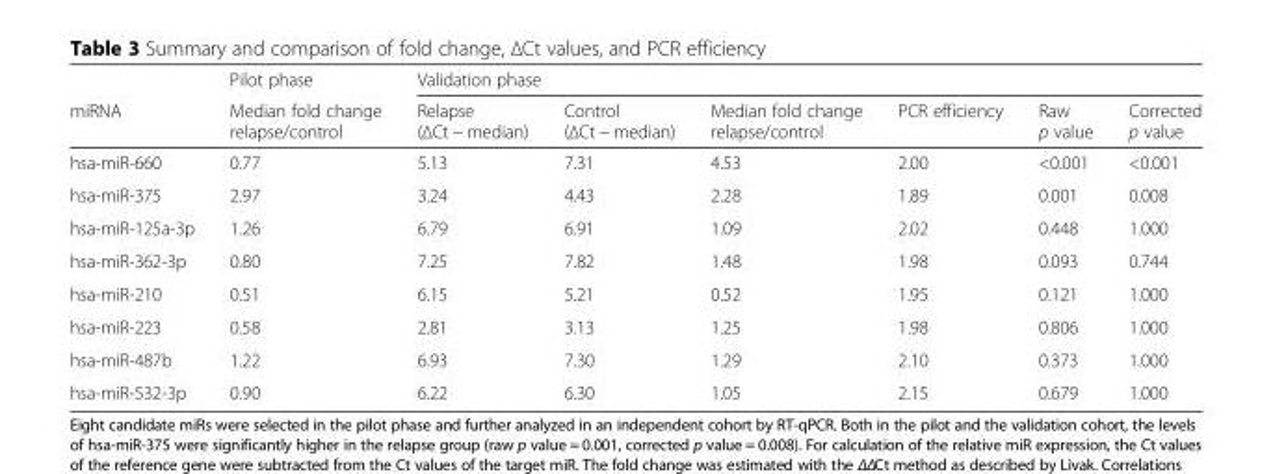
<table><thead><tr><td rowspan="2">miRNA</td><td rowspan="2">Pilot phase Median fold change relapse/control</td><td colspan="6">Validation phase</td></tr><tr><td>Relapse (ΔCt − median)</td><td>Control (ΔCt − median)</td><td>Median fold change relapse/control</td><td>PCR efficiency</td><td>Raw p value</td><td>Corrected p value</td></tr></thead><tbody><tr><td>hsa-miR-660</td><td>0.77</td><td>5.13</td><td>7.31</td><td>4.53</td><td>2.00</td><td>&lt;0.001</td><td>&lt;0.001</td></tr><tr><td>hsa-miR-375</td><td>2.97</td><td>3.24</td><td>4.43</td><td>2.28</td><td>1.89</td><td>0.001</td><td>0.008</td></tr><tr><td>hsa-miR-125a-3p</td><td>1.26</td><td>6.79</td><td>6.91</td><td>1.09</td><td>2.02</td><td>0.448</td><td>1.000</td></tr><tr><td>hsa-miR-362-3p</td><td>0.80</td><td>7.25</td><td>7.82</td><td>1.48</td><td>1.98</td><td>0.093</td><td>0.744</td></tr><tr><td>hsa-miR-210</td><td>0.51</td><td>6.15</td><td>5.21</td><td>0.52</td><td>1.95</td><td>0.121</td><td>1.000</td></tr><tr><td>hsa-miR-223</td><td>0.58</td><td>2.81</td><td>3.13</td><td>1.25</td><td>1.98</td><td>0.806</td><td>1.000</td></tr><tr><td>hsa-miR-487b</td><td>1.22</td><td>6.93</td><td>7.30</td><td>1.29</td><td>2.10</td><td>0.373</td><td>1.000</td></tr><tr><td>hsa-miR-532-3p</td><td>0.90</td><td>6.22</td><td>6.30</td><td>1.05</td><td>2.15</td><td>0.679</td><td>1.000</td></tr></tbody></table>